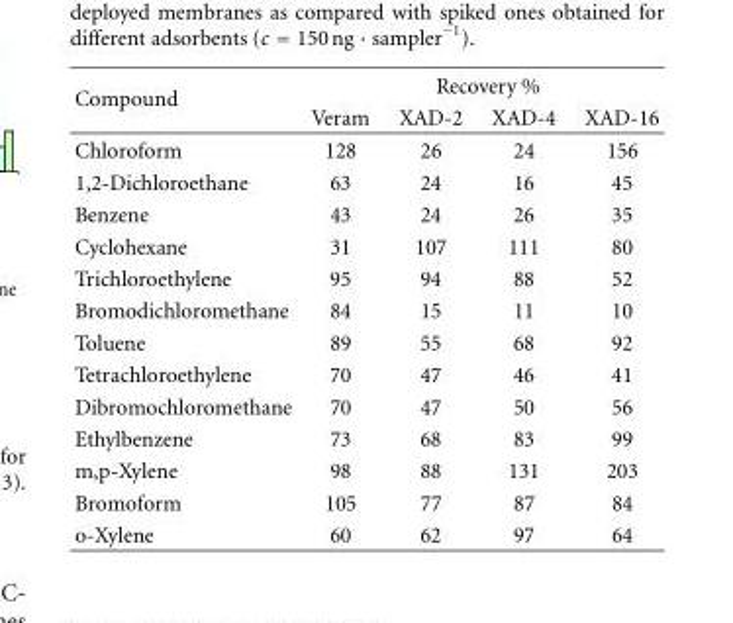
<table><thead><tr><td rowspan="2">Compound</td><td colspan="4">Recovery %</td></tr><tr><td>Veram</td><td>XAD-2</td><td>XAD-4</td><td>XAD-16</td></tr></thead><tbody><tr><td>Chloroform</td><td>128</td><td>26</td><td>24</td><td>156</td></tr><tr><td>1,2-Dichloroethane</td><td>63</td><td>24</td><td>16</td><td>45</td></tr><tr><td>Benzene</td><td>43</td><td>24</td><td>26</td><td>35</td></tr><tr><td>Cyclohexane</td><td>31</td><td>107</td><td>111</td><td>80</td></tr><tr><td>Trichloroethylene</td><td>95</td><td>94</td><td>88</td><td>52</td></tr><tr><td>Bromodichloromethane</td><td>84</td><td>15</td><td>11</td><td>10</td></tr><tr><td>Toluene</td><td>89</td><td>55</td><td>68</td><td>92</td></tr><tr><td>Tetrachloroethylene</td><td>70</td><td>47</td><td>46</td><td>41</td></tr><tr><td>Dibromochloromethane</td><td>70</td><td>47</td><td>50</td><td>56</td></tr><tr><td>Ethylbenzene</td><td>73</td><td>68</td><td>83</td><td>99</td></tr><tr><td>m,p-Xylene</td><td>98</td><td>88</td><td>131</td><td>203</td></tr><tr><td>Bromoform</td><td>105</td><td>77</td><td>87</td><td>84</td></tr><tr><td>o-Xylene</td><td>60</td><td>62</td><td>97</td><td>64</td></tr></tbody></table>